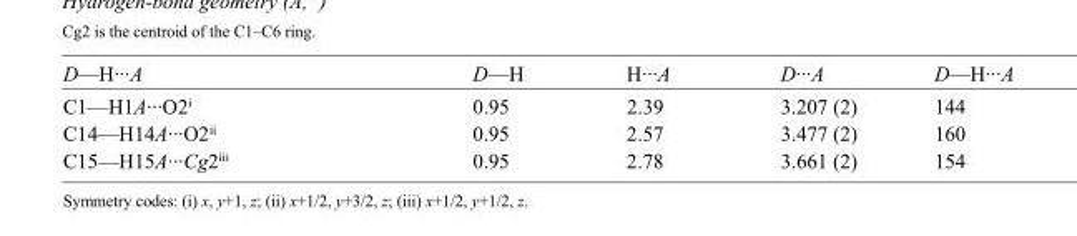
<table><tbody><tr><td>D—H···A</td><td>D—H</td><td>H···A</td><td>D···A</td><td>D—H···A</td></tr><tr><td>C1—H1A···O2<sup>i</sup></td><td>0.95</td><td>2.39</td><td>3.207 (2)</td><td>144</td></tr><tr><td>C14—H14A···O2<sup>ii</sup></td><td>0.95</td><td>2.57</td><td>3.477 (2)</td><td>160</td></tr><tr><td>C15—H15A···Cg2<sup>iii</sup></td><td>0.95</td><td>2.78</td><td>3.661 (2)</td><td>154</td></tr></tbody></table>